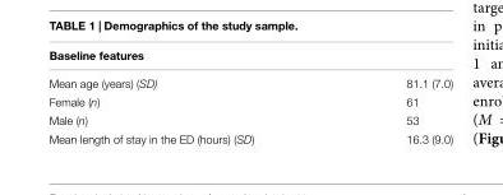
<table><thead><tr><td>Baseline features</td><td></td></tr></thead><tbody><tr><td>Mean age (years) (SD)</td><td>81.1 (7.0)</td></tr><tr><td>Female (n)</td><td>61</td></tr><tr><td>Male (n)</td><td>53</td></tr><tr><td>Mean length of stay in the ED (hours) (SD)</td><td>16.3 (9.0)</td></tr></tbody></table>